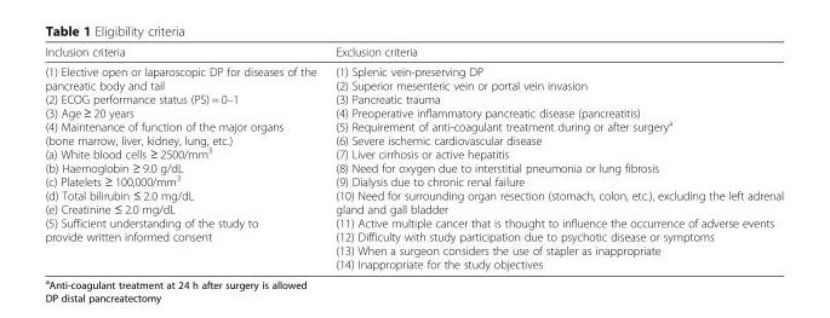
<table><thead><tr><td>Inclusion criteria</td><td>Exclusion criteria</td></tr></thead><tbody><tr><td>(1) Elective open or laparoscopic DP for diseases of the pancreatic body and tail (2) ECOG performance status (PS) = 0–1 (3) Age ≥ 20 years (4) Maintenance of function of the major organs (bone marrow, liver, kidney, lung, etc.) (a) White blood cells ≥ 2500/mm<sup>3</sup> (b) Haemoglobin ≥ 9.0 g/dL (c) Platelets ≥ 100,000/mm<sup>3</sup> (d) Total bilirubin ≤ 2.0 mg/dL (e) Creatinine ≤ 2.0 mg/dL (5) Sufficient understanding of the study to provide written informed consent</td><td>(1) Splenic vein-preserving DP (2) Superior mesenteric vein or portal vein invasion (3) Pancreatic trauma (4) Preoperative inflammatory pancreatic disease (pancreatitis) (5) Requirement of anti-coagulant treatment during or after surgery<sup>a</sup> (6) Severe ischemic cardiovascular disease (7) Liver cirrhosis or active hepatitis (8) Need for oxygen due to interstitial pneumonia or lung fibrosis (9) Dialysis due to chronic renal failure (10) Need for surrounding organ resection (stomach, colon, etc.), excluding the left adrenal gland and gall bladder (11) Active multiple cancer that is thought to influence the occurrence of adverse events (12) Difficulty with study participation due to psychotic disease or symptoms (13) When a surgeon considers the use of stapler as inappropriate (14) Inappropriate for the study objectives</td></tr></tbody></table>